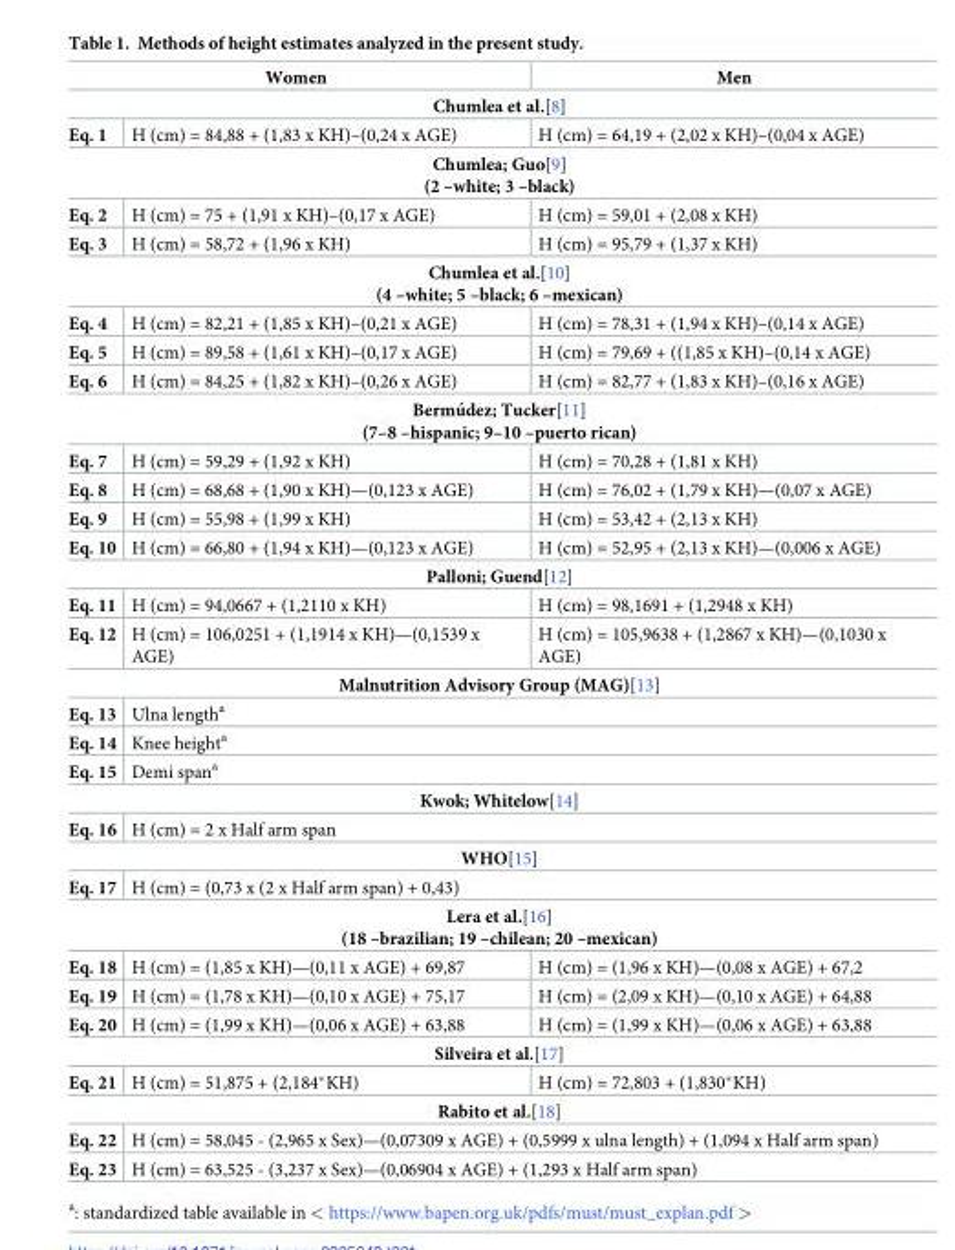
<table><thead><tr><td colspan="2">Women</td><td>Men</td></tr><tr><td colspan="3">Chumlea et al.[8]</td></tr><tr><td>Eq. 1</td><td>H (cm) = 84,88 + (1,83 x KH)–(0,24 x AGE)</td><td>H (cm) = 64,19 + (2,02 x KH)–(0,04 x AGE)</td></tr></thead><tbody><tr><td colspan="3">Chumlea; Guo[9] (2 –white; 3 –black)</td></tr><tr><td>Eq. 2</td><td>H (cm) = 75 + (1,91 x KH)–(0,17 x AGE)</td><td>H (cm) = 59,01 + (2,08 x KH)</td></tr><tr><td>Eq. 3</td><td>H (cm) = 58,72 + (1,96 x KH)</td><td>H (cm) = 95,79 + (1,37 x KH)</td></tr><tr><td colspan="3">Chumlea et al.[10] (4 –white; 5 –black; 6 –mexican)</td></tr><tr><td>Eq. 4</td><td>H (cm) = 82,21 + (1,85 x KH)–(0,21 x AGE)</td><td>H (cm) = 78,31 + (1,94 x KH)–(0,14 x AGE)</td></tr><tr><td>Eq. 5</td><td>H (cm) = 89,58 + (1,61 x KH)–(0,17 x AGE)</td><td>H (cm) = 79,69 + ((1,85 x KH)–(0,14 x AGE)</td></tr><tr><td>Eq. 6</td><td>H (cm) = 84,25 + (1,82 x KH)–(0,26 x AGE)</td><td>H (cm) = 82,77 + (1,83 x KH)–(0,16 x AGE)</td></tr><tr><td colspan="3">Bermu´dez; Tucker[11] (7–8 –hispanic; 9–10 –puerto rican)</td></tr><tr><td>Eq. 7</td><td>H (cm) = 59,29 + (1,92 x KH)</td><td>H (cm) = 70,28 + (1,81 x KH)</td></tr><tr><td>Eq. 8</td><td>H (cm) = 68,68 + (1,90 x KH)—(0,123 x AGE)</td><td>H (cm) = 76,02 + (1,79 x KH)—(0,07 x AGE)</td></tr><tr><td>Eq. 9</td><td>H (cm) = 55,98 + (1,99 x KH)</td><td>H (cm) = 53,42 + (2,13 x KH)</td></tr><tr><td>Eq. 10</td><td>H (cm) = 66,80 + (1,94 x KH)—(0,123 x AGE)</td><td>H (cm) = 52,95 + (2,13 x KH)—(0,006 x AGE)</td></tr><tr><td colspan="3">Palloni; Guend[12]</td></tr><tr><td>Eq. 11</td><td>H (cm) = 94,0667 + (1,2110 x KH)</td><td>H (cm) = 98,1691 + (1,2948 x KH)</td></tr><tr><td>Eq. 12</td><td>H (cm) = 106,0251 + (1,1914 x KH)—(0,1539 x AGE)</td><td>H (cm) = 105,9638 + (1,2867 x KH)—(0,1030 x AGE)</td></tr><tr><td colspan="3">Malnutrition Advisory Group (MAG)[13]</td></tr><tr><td>Eq. 13</td><td colspan="2">Ulna length<sup>a</sup></td></tr><tr><td>Eq. 14</td><td colspan="2">Knee height<sup>a</sup></td></tr><tr><td>Eq. 15</td><td colspan="2">Demi span<sup>a</sup></td></tr><tr><td colspan="3">Kwok; Whitelow[14]</td></tr><tr><td>Eq. 16</td><td colspan="2">H (cm) = 2 x Half arm span</td></tr><tr><td colspan="3">WHO[15]</td></tr><tr><td>Eq. 17</td><td colspan="2">H (cm) = (0,73 x (2 x Half arm span) + 0,43)</td></tr><tr><td colspan="3">Lera et al.[16] (18 –brazilian; 19 –chilean; 20 –mexican)</td></tr><tr><td>Eq. 18</td><td>H (cm) = (1,85 x KH)—(0,11 x AGE) + 69,87</td><td>H (cm) = (1,96 x KH)—(0,08 x AGE) + 67,2</td></tr><tr><td>Eq. 19</td><td>H (cm) = (1,78 x KH)—(0,10 x AGE) + 75,17</td><td>H (cm) = (2,09 x KH)—(0,10 x AGE) + 64,88</td></tr><tr><td>Eq. 20</td><td>H (cm) = (1,99 x KH)—(0,06 x AGE) + 63,88</td><td>H (cm) = (1,99 x KH)—(0,06 x AGE) + 63,88</td></tr><tr><td colspan="3">Silveira et al.[17]</td></tr><tr><td>Eq. 21</td><td>H (cm) = 51,875 + (2,184*KH)</td><td>H (cm) = 72,803 + (1,830*KH)</td></tr><tr><td colspan="3">Rabito et al.[18]</td></tr><tr><td>Eq. 22</td><td colspan="2">H (cm) = 58,045 - (2,965 x Sex)—(0,07309 x AGE) + (0,5999 x ulna length) + (1,094 x Half arm span)</td></tr><tr><td>Eq. 23</td><td colspan="2">H (cm) = 63,525 - (3,237 x Sex)—(0,06904 x AGE) + (1,293 x Half arm span)</td></tr></tbody></table>